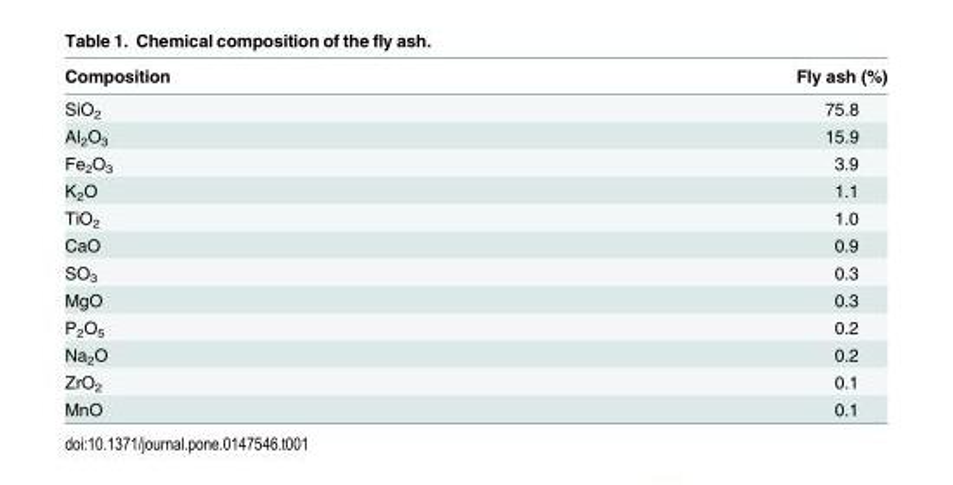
<table><thead><tr><td>Composition</td><td>Fly ash (%)</td></tr></thead><tbody><tr><td>SiO<sub>2</sub></td><td>75.8</td></tr><tr><td>Al<sub>2</sub>O<sub>3</sub></td><td>15.9</td></tr><tr><td>Fe<sub>2</sub>O<sub>3</sub></td><td>3.9</td></tr><tr><td>K<sub>2</sub>O</td><td>1.1</td></tr><tr><td>TiO<sub>2</sub></td><td>1.0</td></tr><tr><td>CaO</td><td>0.9</td></tr><tr><td>SO<sub>3</sub></td><td>0.3</td></tr><tr><td>MgO</td><td>0.3</td></tr><tr><td>P<sub>2</sub>O<sub>5</sub></td><td>0.2</td></tr><tr><td>Na<sub>2</sub>O</td><td>0.2</td></tr><tr><td>ZrO<sub>2</sub></td><td>0.1</td></tr><tr><td>MnO</td><td>0.1</td></tr></tbody></table>